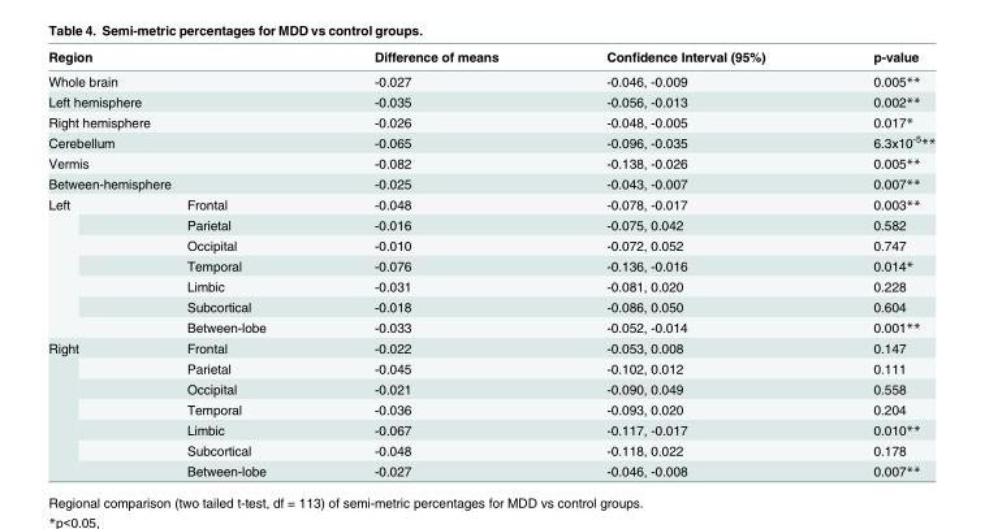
<table><thead><tr><td colspan="2">Region</td><td>Difference of means</td><td>Confidence Interval (95%)</td><td>p-value</td></tr></thead><tbody><tr><td colspan="2">Whole brain</td><td>-0.027</td><td>-0.046, -0.009</td><td>0.005**</td></tr><tr><td colspan="2">Left hemisphere</td><td>-0.035</td><td>-0.056, -0.013</td><td>0.002**</td></tr><tr><td colspan="2">Right hemisphere</td><td>-0.026</td><td>-0.048, -0.005</td><td>0.017*</td></tr><tr><td colspan="2">Cerebellum</td><td>-0.065</td><td>-0.096, -0.035</td><td>6.3x10<sup>-5</sup>**</td></tr><tr><td colspan="2">Vermis</td><td>-0.082</td><td>-0.138, -0.026</td><td>0.005**</td></tr><tr><td colspan="2">Between-hemisphere</td><td>-0.025</td><td>-0.043, -0.007</td><td>0.007**</td></tr><tr><td rowspan="7">Left</td><td>Frontal</td><td>-0.048</td><td>-0.078, -0.017</td><td>0.003**</td></tr><tr><td>Parietal</td><td>-0.016</td><td>-0.075, 0.042</td><td>0.582</td></tr><tr><td>Occipital</td><td>-0.010</td><td>-0.072, 0.052</td><td>0.747</td></tr><tr><td>Temporal</td><td>-0.076</td><td>-0.136, -0.016</td><td>0.014*</td></tr><tr><td>Limbic</td><td>-0.031</td><td>-0.081, 0.020</td><td>0.228</td></tr><tr><td>Subcortical</td><td>-0.018</td><td>-0.086, 0.050</td><td>0.604</td></tr><tr><td>Between-lobe</td><td>-0.033</td><td>-0.052, -0.014</td><td>0.001**</td></tr><tr><td rowspan="7">Right</td><td>Frontal</td><td>-0.022</td><td>-0.053, 0.008</td><td>0.147</td></tr><tr><td>Parietal</td><td>-0.045</td><td>-0.102, 0.012</td><td>0.111</td></tr><tr><td>Occipital</td><td>-0.021</td><td>-0.090, 0.049</td><td>0.558</td></tr><tr><td>Temporal</td><td>-0.036</td><td>-0.093, 0.020</td><td>0.204</td></tr><tr><td>Limbic</td><td>-0.067</td><td>-0.117, -0.017</td><td>0.010**</td></tr><tr><td>Subcortical</td><td>-0.048</td><td>-0.118, 0.022</td><td>0.178</td></tr><tr><td>Between-lobe</td><td>-0.027</td><td>-0.046, -0.008</td><td>0.007**</td></tr></tbody></table>